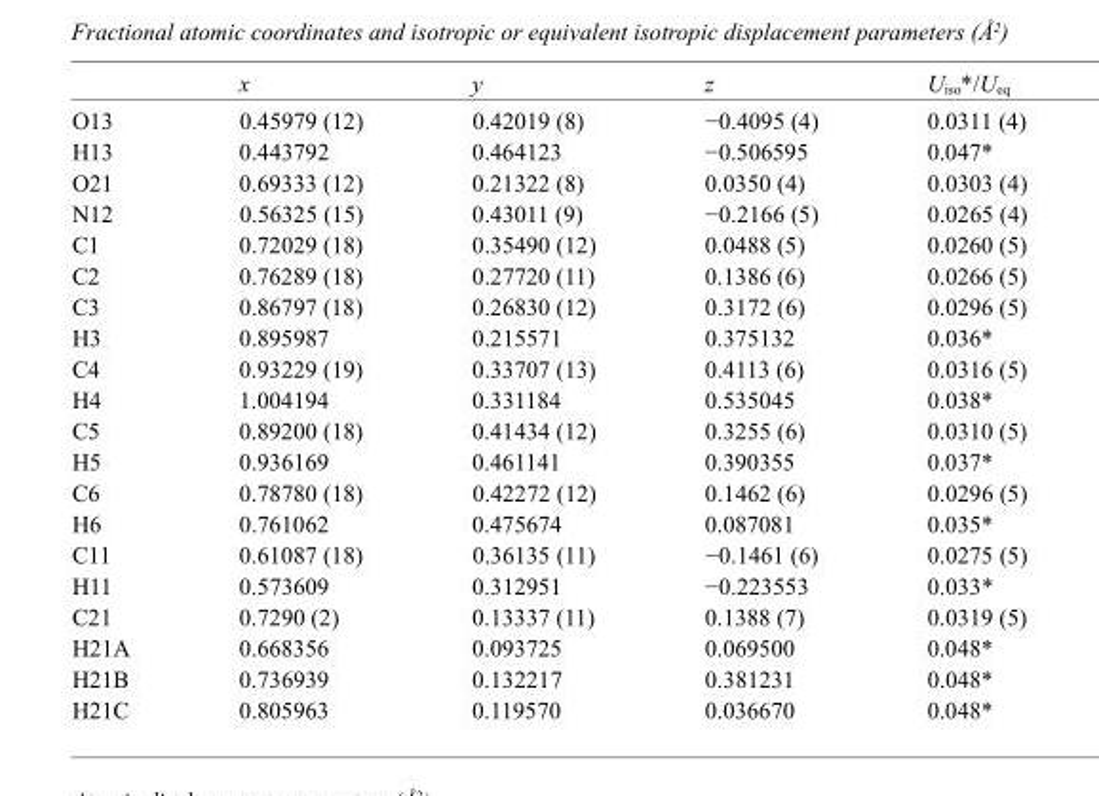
<table><thead><tr><td></td><td>x</td><td>y</td><td>z</td><td>U<sub>iso</sub>*/U<sub>eq</sub></td></tr></thead><tbody><tr><td>O13</td><td>0.45979 (12)</td><td>0.42019 (8)</td><td>−0.4095 (4)</td><td>0.0311 (4)</td></tr><tr><td>H13</td><td>0.443792</td><td>0.464123</td><td>−0.506595</td><td>0.047*</td></tr><tr><td>O21</td><td>0.69333 (12)</td><td>0.21322 (8)</td><td>0.0350 (4)</td><td>0.0303 (4)</td></tr><tr><td>N12</td><td>0.56325 (15)</td><td>0.43011 (9)</td><td>−0.2166 (5)</td><td>0.0265 (4)</td></tr><tr><td>C1</td><td>0.72029 (18)</td><td>0.35490 (12)</td><td>0.0488 (5)</td><td>0.0260 (5)</td></tr><tr><td>C2</td><td>0.76289 (18)</td><td>0.27720 (11)</td><td>0.1386 (6)</td><td>0.0266 (5)</td></tr><tr><td>C3</td><td>0.86797 (18)</td><td>0.26830 (12)</td><td>0.3172 (6)</td><td>0.0296 (5)</td></tr><tr><td>H3</td><td>0.895987</td><td>0.215571</td><td>0.375132</td><td>0.036*</td></tr><tr><td>C4</td><td>0.93229 (19)</td><td>0.33707 (13)</td><td>0.4113 (6)</td><td>0.0316 (5)</td></tr><tr><td>H4</td><td>1.004194</td><td>0.331184</td><td>0.535045</td><td>0.038*</td></tr><tr><td>C5</td><td>0.89200 (18)</td><td>0.41434 (12)</td><td>0.3255 (6)</td><td>0.0310 (5)</td></tr><tr><td>H5</td><td>0.936169</td><td>0.461141</td><td>0.390355</td><td>0.037*</td></tr><tr><td>C6</td><td>0.78780 (18)</td><td>0.42272 (12)</td><td>0.1462 (6)</td><td>0.0296 (5)</td></tr><tr><td>H6</td><td>0.761062</td><td>0.475674</td><td>0.087081</td><td>0.035*</td></tr><tr><td>C11</td><td>0.61087 (18)</td><td>0.36135 (11)</td><td>−0.1461 (6)</td><td>0.0275 (5)</td></tr><tr><td>H11</td><td>0.573609</td><td>0.312951</td><td>−0.223553</td><td>0.033*</td></tr><tr><td>C21</td><td>0.7290 (2)</td><td>0.13337 (11)</td><td>0.1388 (7)</td><td>0.0319 (5)</td></tr><tr><td>H21A</td><td>0.668356</td><td>0.093725</td><td>0.069500</td><td>0.048*</td></tr><tr><td>H21B</td><td>0.736939</td><td>0.132217</td><td>0.381231</td><td>0.048*</td></tr><tr><td>H21C</td><td>0.805963</td><td>0.119570</td><td>0.036670</td><td>0.048*</td></tr></tbody></table>